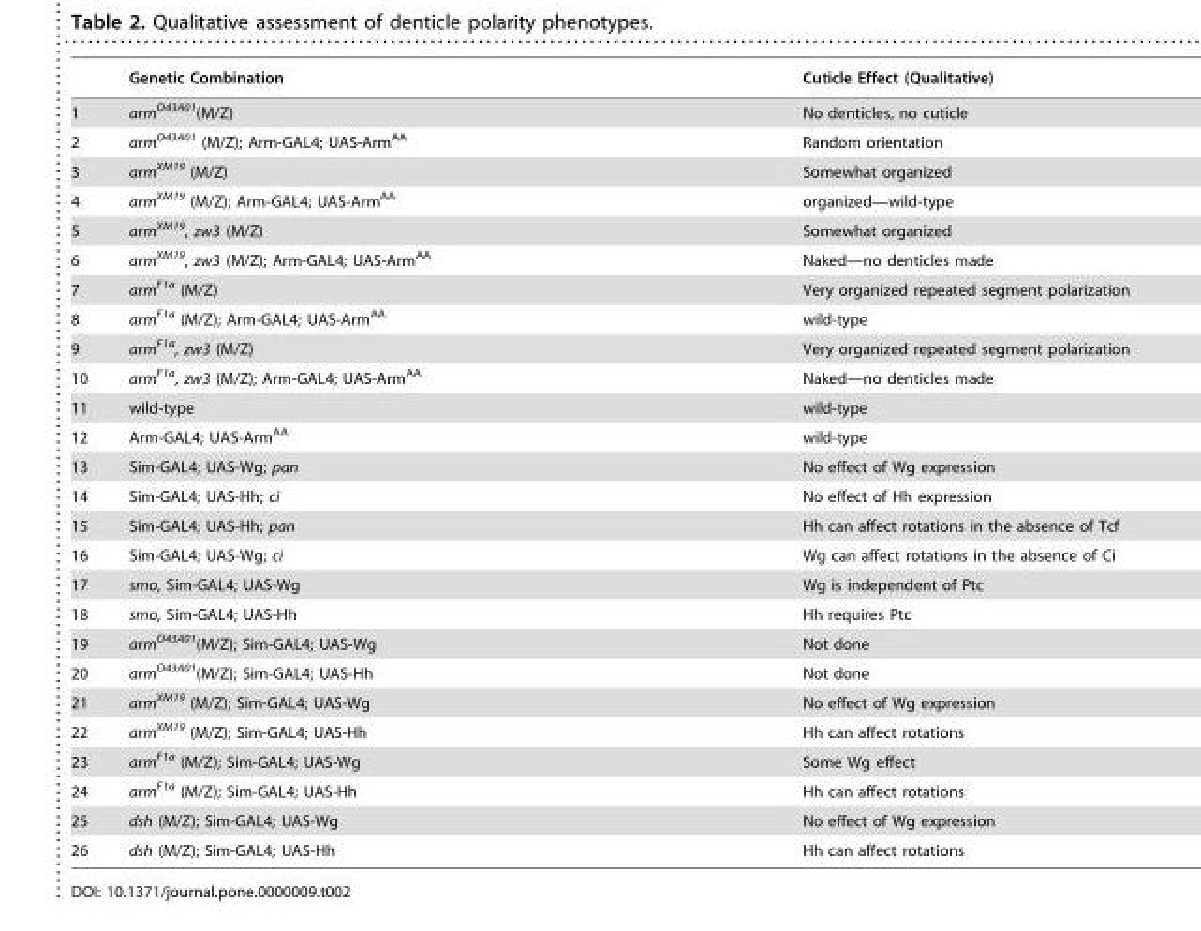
<table><thead><tr><td></td><td>Genetic Combination</td><td>Cuticle Effect (Qualitative)</td></tr></thead><tbody><tr><td>1</td><td>arm<sup>O43A01</sup>(M/Z)</td><td>No denticles, no cuticle</td></tr><tr><td>2</td><td>arm<sup>O43A01</sup> (M/Z); Arm-GAL4; UAS-Arm<sup>AA</sup></td><td>Random orientation</td></tr><tr><td>3</td><td>arm<sup>XM19</sup> (M/Z)</td><td>Somewhat organized</td></tr><tr><td>4</td><td>arm<sup>XM19</sup> (M/Z); Arm-GAL4; UAS-Arm<sup>AA</sup></td><td>organized—wild-type</td></tr><tr><td>5</td><td>arm<sup>XM19</sup>, zw3 (M/Z)</td><td>Somewhat organized</td></tr><tr><td>6</td><td>arm<sup>XM19</sup>, zw3 (M/Z); Arm-GAL4; UAS-Arm<sup>AA</sup></td><td>Naked—no denticles made</td></tr><tr><td>7</td><td>arm<sup>F1a</sup> (M/Z)</td><td>Very organized repeated segment polarization</td></tr><tr><td>8</td><td>arm<sup>F1a</sup> (M/Z); Arm-GAL4; UAS-Arm<sup>AA</sup></td><td>wild-type</td></tr><tr><td>9</td><td>arm<sup>F1a</sup>, zw3 (M/Z)</td><td>Very organized repeated segment polarization</td></tr><tr><td>10</td><td>arm<sup>F1a</sup>, zw3 (M/Z); Arm-GAL4; UAS-Arm<sup>AA</sup></td><td>Naked—no denticles made</td></tr><tr><td>11</td><td>wild-type</td><td>wild-type</td></tr><tr><td>12</td><td>Arm-GAL4; UAS-Arm<sup>AA</sup></td><td>wild-type</td></tr><tr><td>13</td><td>Sim-GAL4; UAS-Wg; pan</td><td>No effect of Wg expression</td></tr><tr><td>14</td><td>Sim-GAL4; UAS-Hh; ci</td><td>No effect of Hh expression</td></tr><tr><td>15</td><td>Sim-GAL4; UAS-Hh; pan</td><td>Hh can affect rotations in the absence of Tcf</td></tr><tr><td>16</td><td>Sim-GAL4; UAS-Wg; ci</td><td>Wg can affect rotations in the absence of Ci</td></tr><tr><td>17</td><td>smo, Sim-GAL4; UAS-Wg</td><td>Wg is independent of Ptc</td></tr><tr><td>18</td><td>smo, Sim-GAL4; UAS-Hh</td><td>Hh requires Ptc</td></tr><tr><td>19</td><td>arm<sup>O43A01</sup>(M/Z); Sim-GAL4; UAS-Wg</td><td>Not done</td></tr><tr><td>20</td><td>arm<sup>O43A01</sup>(M/Z); Sim-GAL4; UAS-Hh</td><td>Not done</td></tr><tr><td>21</td><td>arm<sup>XM19</sup> (M/Z); Sim-GAL4; UAS-Wg</td><td>No effect of Wg expression</td></tr><tr><td>22</td><td>arm<sup>XM19</sup> (M/Z); Sim-GAL4; UAS-Hh</td><td>Hh can affect rotations</td></tr><tr><td>23</td><td>arm<sup>F1a</sup> (M/Z); Sim-GAL4; UAS-Wg</td><td>Some Wg effect</td></tr><tr><td>24</td><td>arm<sup>F1a</sup> (M/Z); Sim-GAL4; UAS-Hh</td><td>Hh can affect rotations</td></tr><tr><td>25</td><td>dsh (M/Z); Sim-GAL4; UAS-Wg</td><td>No effect of Wg expression</td></tr><tr><td>26</td><td>dsh (M/Z); Sim-GAL4; UAS-Hh</td><td>Hh can affect rotations</td></tr></tbody></table>